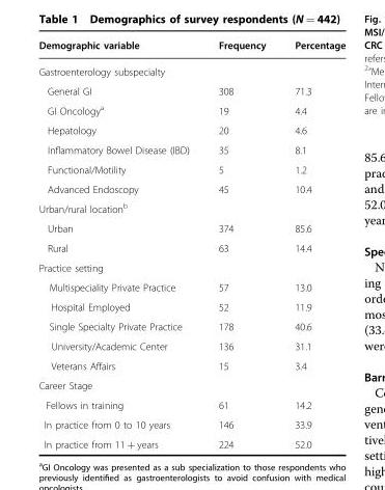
<table><thead><tr><td>Demographic variable</td><td>Frequency</td><td>Percentage</td></tr></thead><tbody><tr><td colspan="3">Gastroenterology subspecialty</td></tr><tr><td>General GI</td><td>308</td><td>71.3</td></tr><tr><td>GI Oncology<sup>a</sup></td><td>19</td><td>4.4</td></tr><tr><td>Hepatology</td><td>20</td><td>4.6</td></tr><tr><td>Inflammatory Bowel Disease (IBD)</td><td>35</td><td>8.1</td></tr><tr><td>Functional/Motility</td><td>5</td><td>1.2</td></tr><tr><td>Advanced Endoscopy</td><td>45</td><td>10.4</td></tr><tr><td colspan="3">Urban/rural location<sup>b</sup></td></tr><tr><td>Urban</td><td>374</td><td>85.6</td></tr><tr><td>Rural</td><td>63</td><td>14.4</td></tr><tr><td colspan="3">Practice setting</td></tr><tr><td>Multispeciality Private Practice</td><td>57</td><td>13.0</td></tr><tr><td>Hospital Employed</td><td>52</td><td>11.9</td></tr><tr><td>Single Specialty Private Practice</td><td>178</td><td>40.6</td></tr><tr><td>University/Academic Center</td><td>136</td><td>31.1</td></tr><tr><td>Veterans Affairs</td><td>15</td><td>3.4</td></tr><tr><td colspan="3">Career Stage</td></tr><tr><td>Fellows in training</td><td>61</td><td>14.2</td></tr><tr><td>In practice from 0 to 10 years</td><td>146</td><td>33.9</td></tr><tr><td>In practice from 11 + years</td><td>224</td><td>52.0</td></tr></tbody></table>